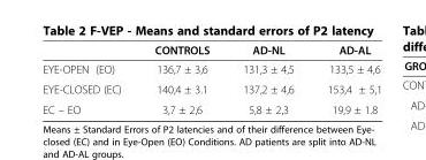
<table><thead><tr><td></td><td>CONTROLS</td><td>AD-NL</td><td>AD-AL</td></tr></thead><tbody><tr><td>EYE-OPEN (EO)</td><td>136,7 ± 3,6</td><td>131,3 ± 4,5</td><td>133,5 ± 4,6</td></tr><tr><td>EYE-CLOSED (EC)</td><td>140,4 ± 3.1</td><td>137,2 ± 4,6</td><td>153,4 ± 5,1</td></tr><tr><td>EC – EO</td><td>3,7 ± 2,6</td><td>5,8 ± 2,3</td><td>19,9 ± 1.8</td></tr></tbody></table>